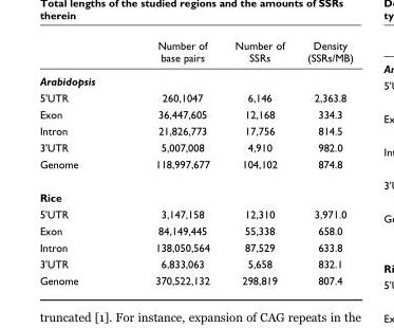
<table><thead><tr><td></td><td>Number of base pairs</td><td>Number of SSRs</td><td>Density (SSRs/MB)</td></tr></thead><tbody><tr><td colspan="4">Arabidopsis</td></tr><tr><td>5&#x27;UTR</td><td>260,1047</td><td>6,146</td><td>2,363.8</td></tr><tr><td>Exon</td><td>36,447,605</td><td>12,168</td><td>334.3</td></tr><tr><td>Intron</td><td>21,826,773</td><td>17,756</td><td>814.5</td></tr><tr><td>3&#x27;UTR</td><td>5,007,008</td><td>4,910</td><td>982.0</td></tr><tr><td>Genome</td><td>118,997,677</td><td>104,102</td><td>874.8</td></tr><tr><td colspan="4">Rice</td></tr><tr><td>5&#x27;UTR</td><td>3,147,158</td><td>12,310</td><td>3,971.0</td></tr><tr><td>Exon</td><td>84,149,445</td><td>55,338</td><td>658.0</td></tr><tr><td>Intron</td><td>138,050,564</td><td>87,529</td><td>633.8</td></tr><tr><td>3&#x27;UTR</td><td>6,833,063</td><td>5,658</td><td>832.1</td></tr><tr><td>Genome</td><td>370,522,132</td><td>298,819</td><td>807.4</td></tr></tbody></table>